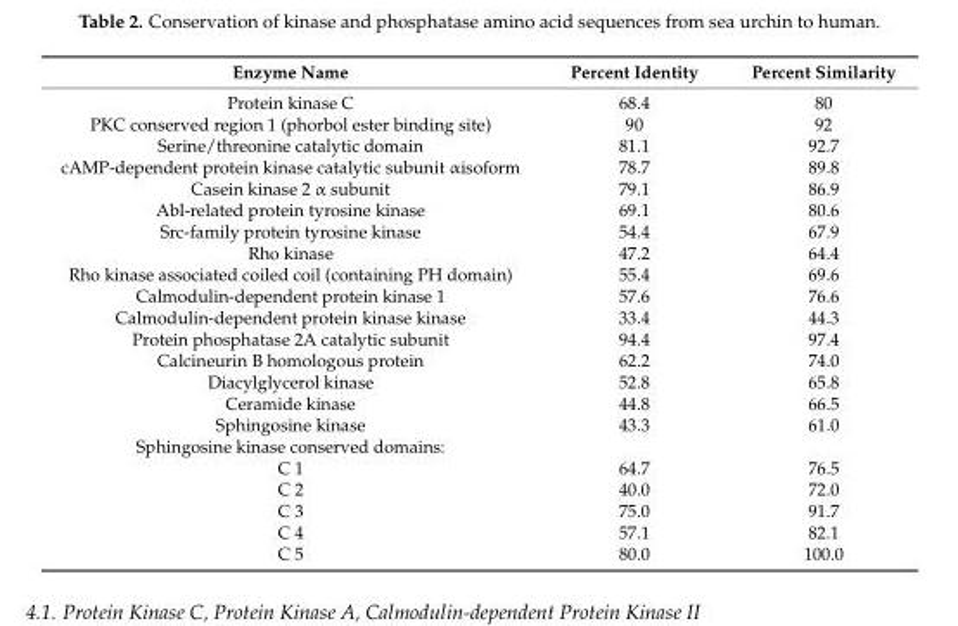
<table><thead><tr><td>Enzyme Name</td><td>Percent Identity</td><td>Percent Similarity</td></tr></thead><tbody><tr><td>Protein kinase C</td><td>68.4</td><td>80</td></tr><tr><td>PKC conserved region 1 (phorbol ester binding site)</td><td>90</td><td>92</td></tr><tr><td>Serine/threonine catalytic domain</td><td>81.1</td><td>92.7</td></tr><tr><td>cAMP-dependent protein kinase catalytic subunit αisoform</td><td>78.7</td><td>89.8</td></tr><tr><td>Casein kinase 2 α subunit</td><td>79.1</td><td>86.9</td></tr><tr><td>Abl-related protein tyrosine kinase</td><td>69.1</td><td>80.6</td></tr><tr><td>Src-family protein tyrosine kinase</td><td>54.4</td><td>67.9</td></tr><tr><td>Rho kinase</td><td>47.2</td><td>64.4</td></tr><tr><td>Rho kinase associated coiled coil (containing PH domain)</td><td>55.4</td><td>69.6</td></tr><tr><td>Calmodulin-dependent protein kinase 1</td><td>57.6</td><td>76.6</td></tr><tr><td>Calmodulin-dependent protein kinase kinase</td><td>33.4</td><td>44.3</td></tr><tr><td>Protein phosphatase 2A catalytic subunit</td><td>94.4</td><td>97.4</td></tr><tr><td>Calcineurin B homologous protein</td><td>62.2</td><td>74.0</td></tr><tr><td>Diacylglycerol kinase</td><td>52.8</td><td>65.8</td></tr><tr><td>Ceramide kinase</td><td>44.8</td><td>66.5</td></tr><tr><td>Sphingosine kinase</td><td>43.3</td><td>61.0</td></tr><tr><td colspan="3">Sphingosine kinase conserved domains:</td></tr><tr><td>C 1</td><td>64.7</td><td>76.5</td></tr><tr><td>C 2</td><td>40.0</td><td>72.0</td></tr><tr><td>C 3</td><td>75.0</td><td>91.7</td></tr><tr><td>C 4</td><td>57.1</td><td>82.1</td></tr><tr><td>C 5</td><td>80.0</td><td>100.0</td></tr></tbody></table>